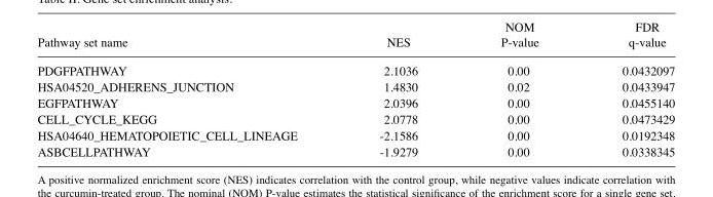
<table><thead><tr><td>Pathway set name</td><td>NES</td><td>P-value</td><td>q-value</td></tr></thead><tbody><tr><td>PDGFPATHWAY</td><td>2.1036</td><td>0.00</td><td>0.0432097</td></tr><tr><td>HSA04520_ADHERENS_JUNCTION</td><td>1.4830</td><td>0.02</td><td>0.0433947</td></tr><tr><td>EGFPATHWAY</td><td>2.0396</td><td>0.00</td><td>0.0455140</td></tr><tr><td>CELL_CYCLE_KEGG</td><td>2.0778</td><td>0.00</td><td>0.0473429</td></tr><tr><td>HSA04640_HEMATOPOIETIC_CELL_LINEAGE</td><td>-2.1586</td><td>0.00</td><td>0.0192348</td></tr><tr><td>ASBCELLPATHWAY</td><td>-1.9279</td><td>0.00</td><td>0.0338345</td></tr></tbody></table>